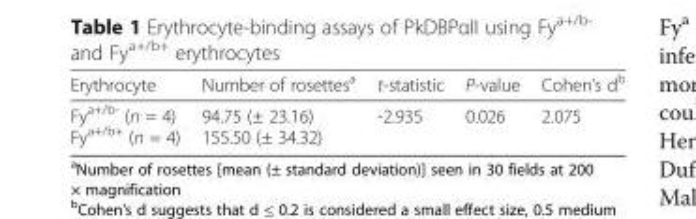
<table><thead><tr><td>Erythrocyte</td><td>Number of rosettes<sup>a</sup></td><td>t-statistic</td><td>P-value</td><td>Cohen’s d<sup>b</sup></td></tr></thead><tbody><tr><td>Fy<sup>a+/b-</sup> (n = 4) Fy<sup>a+/b+</sup> (n = 4)</td><td>94.75 (± 23.16) 155.50 (± 34.32)</td><td>-2.935</td><td>0.026</td><td>2.075</td></tr></tbody></table>